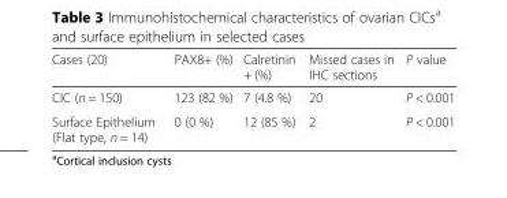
<table><thead><tr><td>Cases (20)</td><td>PAX8+ (%)</td><td>Calretinin + (%)</td><td>Missed cases in IHC sections</td><td>P value</td></tr></thead><tbody><tr><td>CIC (n = 150)</td><td>123 (82 %)</td><td>7 (4.8 %)</td><td>20</td><td>P &lt; 0.001</td></tr><tr><td>Surface Epithelium (Flat type, n = 14)</td><td>0 (0 %)</td><td>12 (85 %)</td><td>2</td><td>P &lt; 0.001</td></tr></tbody></table>